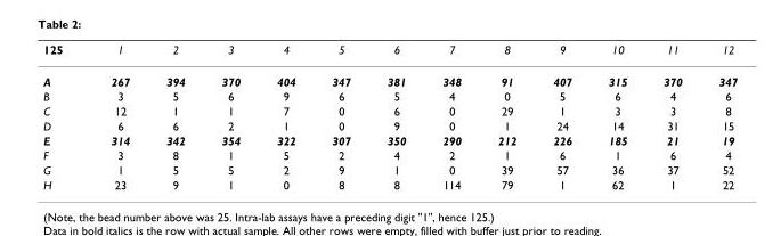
<table><thead><tr><td>125</td><td>1</td><td>2</td><td>3</td><td>4</td><td>5</td><td>6</td><td>7</td><td>8</td><td>9</td><td>10</td><td>11</td><td>12</td></tr></thead><tbody><tr><td>A</td><td>267</td><td>394</td><td>370</td><td>404</td><td>347</td><td>381</td><td>348</td><td>91</td><td>407</td><td>315</td><td>370</td><td>347</td></tr><tr><td>B</td><td>3</td><td>5</td><td>6</td><td>9</td><td>6</td><td>5</td><td>4</td><td>0</td><td>5</td><td>6</td><td>4</td><td>6</td></tr><tr><td>C</td><td>12</td><td>1</td><td>1</td><td>7</td><td>0</td><td>6</td><td>0</td><td>29</td><td>1</td><td>3</td><td>3</td><td>8</td></tr><tr><td>D</td><td>6</td><td>6</td><td>2</td><td>1</td><td>0</td><td>9</td><td>0</td><td>1</td><td>24</td><td>14</td><td>31</td><td>15</td></tr><tr><td>E</td><td>314</td><td>342</td><td>354</td><td>322</td><td>307</td><td>350</td><td>290</td><td>212</td><td>226</td><td>185</td><td>21</td><td>19</td></tr><tr><td>F</td><td>3</td><td>8</td><td>1</td><td>5</td><td>2</td><td>4</td><td>2</td><td>1</td><td>6</td><td>1</td><td>6</td><td>4</td></tr><tr><td>G</td><td>1</td><td>5</td><td>5</td><td>2</td><td>9</td><td>1</td><td>0</td><td>39</td><td>57</td><td>36</td><td>37</td><td>52</td></tr><tr><td>H</td><td>23</td><td>9</td><td>1</td><td>0</td><td>8</td><td>8</td><td>114</td><td>79</td><td>1</td><td>62</td><td>1</td><td>22</td></tr></tbody></table>